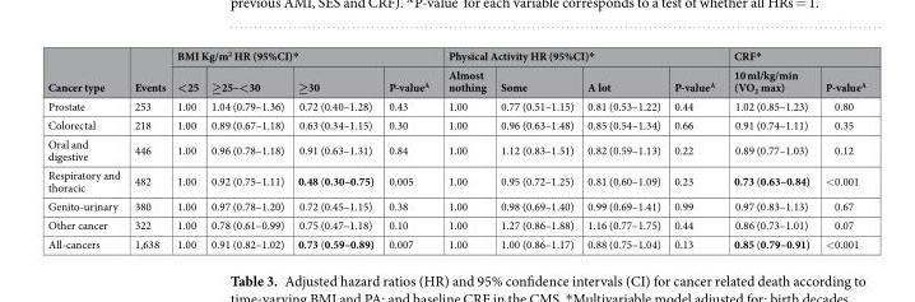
<table><thead><tr><td rowspan="2">Cancer type</td><td rowspan="2">Events</td><td colspan="4">BMI Kg/m<sup>2</sup> HR (95%CI)*</td><td colspan="4">Physical Activity HR (95%CI)*</td><td colspan="2">CRF*</td></tr><tr><td>&lt;25</td><td>≥25–&lt;30</td><td>≥30</td><td>P-value<sup>A</sup></td><td>Almost nothing</td><td>Some</td><td>A lot</td><td>P-value<sup>A</sup></td><td>10 ml/kg/min (VO<sub>2</sub> max)</td><td>P-value<sup>A</sup></td></tr></thead><tbody><tr><td>Prostate</td><td>253</td><td>1.00</td><td>1.04 (0.79–1.36)</td><td>0.72 (0.40–1.28)</td><td>0.43</td><td>1.00</td><td>0.77 (0.51–1.15)</td><td>0.81 (0.53–1.22)</td><td>0.44</td><td>1.02 (0.85–1.23)</td><td>0.80</td></tr><tr><td>Colorectal</td><td>218</td><td>1.00</td><td>0.89 (0.67–1.18)</td><td>0.63 (0.34–1.15)</td><td>0.30</td><td>1.00</td><td>0.96 (0.63–1.48)</td><td>0.85 (0.54–1.34)</td><td>0.66</td><td>0.91 (0.74–1.11)</td><td>0.35</td></tr><tr><td>Oral and digestive</td><td>446</td><td>1.00</td><td>0.96 (0.78–1.18)</td><td>0.91 (0.63–1.31)</td><td>0.84</td><td>1.00</td><td>1.12 (0.83–1.51)</td><td>0.82 (0.59–1.13)</td><td>0.22</td><td>0.89 (0.77–1.03)</td><td>0.12</td></tr><tr><td>Respiratory and thoracic</td><td>482</td><td>1.00</td><td>0.92 (0.75–1.11)</td><td>0.48 (0.30–0.75)</td><td>0.005</td><td>1.00</td><td>0.95 (0.72–1.25)</td><td>0.81 (0.60–1.09)</td><td>0.23</td><td>0.73 (0.63–0.84)</td><td>&lt;0.001</td></tr><tr><td>Genito-urinary</td><td>380</td><td>1.00</td><td>0.97 (0.78–1.20)</td><td>0.72 (0.45–1.15)</td><td>0.38</td><td>1.00</td><td>0.98 (0.69–1.40)</td><td>0.99 (0.69–1.41)</td><td>0.99</td><td>0.97 (0.83–1.13)</td><td>0.67</td></tr><tr><td>Other cancer</td><td>322</td><td>1.00</td><td>0.78 (0.61–0.99)</td><td>0.75 (0.47–1.18)</td><td>0.10</td><td>1.00</td><td>1.27 (0.86–1.88)</td><td>1.16 (0.77–1.75)</td><td>0.44</td><td>0.86 (0.73–1.01)</td><td>0.07</td></tr><tr><td>All-cancers</td><td>1,638</td><td>1.00</td><td>0.91 (0.82–1.02)</td><td>0.73 (0.59–0.89)</td><td>0.007</td><td>1.00</td><td>1.00 (0.86–1.17)</td><td>0.88 (0.75–1.04)</td><td>0.13</td><td>0.85 (0.79–0.91)</td><td>&lt;0.001</td></tr></tbody></table>